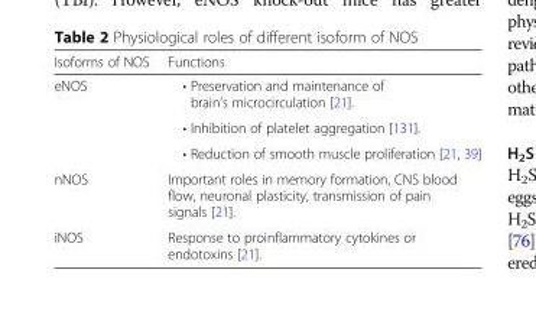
<table><thead><tr><td>Isoforms of NOS</td><td>Functions</td></tr></thead><tbody><tr><td rowspan="3">eNOS</td><td>• Preservation and maintenance of brain’s microcirculation [21].</td></tr><tr><td>• Inhibition of platelet aggregation [131].</td></tr><tr><td>• Reduction of smooth muscle proliferation [21, 39]</td></tr><tr><td>nNOS</td><td>Important roles in memory formation, CNS blood flow, neuronal plasticity, transmission of pain signals [21].</td></tr><tr><td>iNOS</td><td>Response to proinflammatory cytokines or endotoxins [21].</td></tr></tbody></table>